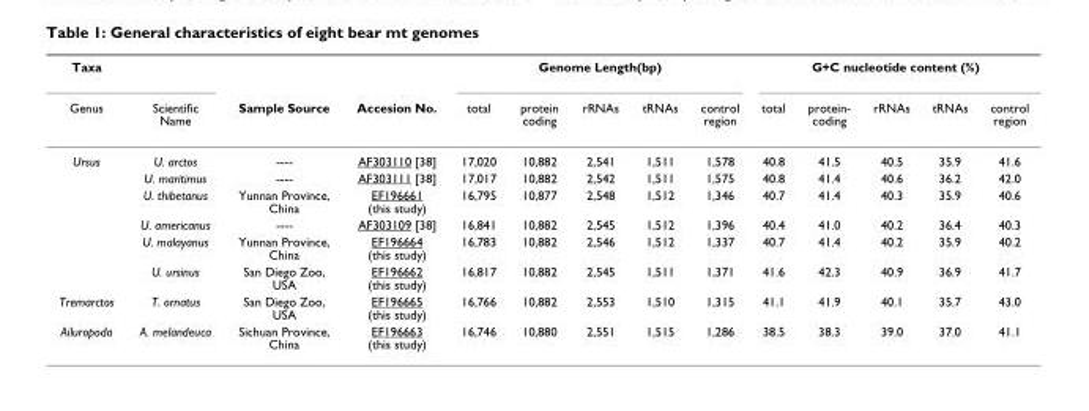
<table><thead><tr><td rowspan="2">Taxa Genus</td><td rowspan="2">Scientific Name</td><td rowspan="2">Sample Source</td><td rowspan="2">Accesion No.</td><td colspan="5">Genome Length(bp)</td><td colspan="5">G+C nucleotide content (%)</td></tr><tr><td>total</td><td>protein coding</td><td>rRNAs</td><td>tRNAs</td><td>control region</td><td>total</td><td>protein- coding</td><td>rRNAs</td><td>tRNAs</td><td>control region</td></tr></thead><tbody><tr><td rowspan="6">Ursus</td><td>U. arctos</td><td>----</td><td>AF303110 [38]</td><td>17,020</td><td>10,882</td><td>2,541</td><td>1,511</td><td>1,578</td><td>40.8</td><td>41.5</td><td>40.5</td><td>35.9</td><td>41.6</td></tr><tr><td>U. maritimus</td><td>----</td><td>AF303111 [38]</td><td>17,017</td><td>10,882</td><td>2,542</td><td>1,511</td><td>1,575</td><td>40.8</td><td>41.4</td><td>40.6</td><td>36.2</td><td>42.0</td></tr><tr><td>U. thibetanus</td><td>Yunnan Province, China</td><td>EF196661 (this study)</td><td>16,795</td><td>10,877</td><td>2,548</td><td>1,512</td><td>1,346</td><td>40.7</td><td>41.4</td><td>40.3</td><td>35.9</td><td>40.6</td></tr><tr><td>U. americanus</td><td>----</td><td>AF303109 [38]</td><td>16,841</td><td>10,882</td><td>2,545</td><td>1,512</td><td>1,396</td><td>40.4</td><td>41.0</td><td>40.2</td><td>36.4</td><td>40.3</td></tr><tr><td>U. malayanus</td><td>Yunnan Province, China</td><td>EF196664 (this study)</td><td>16,783</td><td>10,882</td><td>2,546</td><td>1,512</td><td>1,337</td><td>40.7</td><td>41.4</td><td>40.2</td><td>35.9</td><td>40.2</td></tr><tr><td>U. ursinus</td><td>San Diego Zoo, USA</td><td>EF196662 (this study)</td><td>16,817</td><td>10,882</td><td>2,545</td><td>1,511</td><td>1,371</td><td>41.6</td><td>42.3</td><td>40.9</td><td>36.9</td><td>41.7</td></tr><tr><td>Tremarctos</td><td>T. ornatus</td><td>San Diego Zoo, USA</td><td>EF196665 (this study)</td><td>16,766</td><td>10,882</td><td>2,553</td><td>1,510</td><td>1,315</td><td>41.1</td><td>41.9</td><td>40.1</td><td>35.7</td><td>43.0</td></tr><tr><td>Ailuropoda</td><td>A. melandeuca</td><td>Sichuan Province, China</td><td>EF196663 (this study)</td><td>16,746</td><td>10,880</td><td>2,551</td><td>1,515</td><td>1,286</td><td>38.5</td><td>38.3</td><td>39.0</td><td>37.0</td><td>41.1</td></tr></tbody></table>